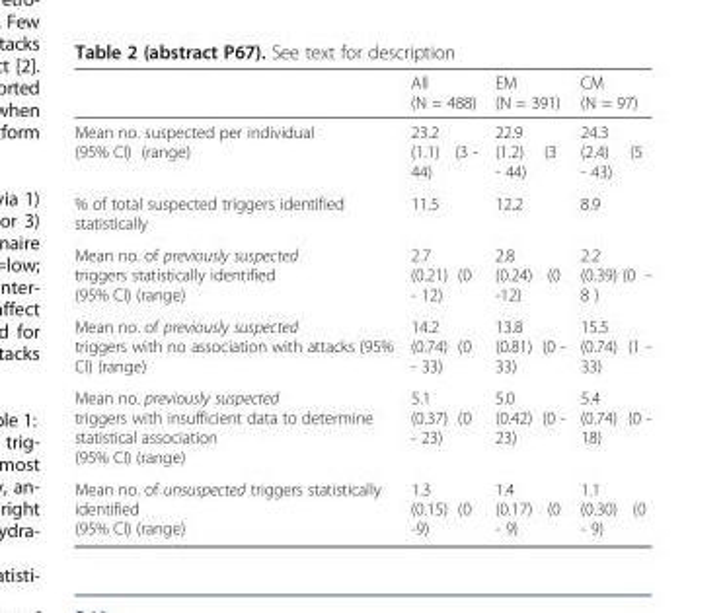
<table><thead><tr><td></td><td>All (N = 488)</td><td>EM (N = 391)</td><td>CM (N = 97)</td></tr></thead><tbody><tr><td>Mean no. suspected per individual (95% CI) (range)</td><td>23.2 (1.1) (3 - 44)</td><td>22.9 (1.2) (3 - 44)</td><td>24.3 (2.4) (5 - 43)</td></tr><tr><td>% of total suspected triggers identified statistically</td><td>11.5</td><td>12.2</td><td>8.9</td></tr><tr><td>Mean no. of previously suspected triggers statistically identified (95% CI) (range)</td><td>2.7 (0.21) (0 - 12)</td><td>2.8 (0.24) (0 -12)</td><td>2.2 (0.39) (0 - 8 )</td></tr><tr><td>Mean no. of previously suspected triggers with no association with attacks (95% CI) (range)</td><td>14.2 (0.74) (0 - 33)</td><td>13.8 (0.81) (0 - 33)</td><td>15.5 (0.74) (1 - 33)</td></tr><tr><td>Mean no. previously suspected triggers with insufficient data to determine statistical association (95% CI) (range)</td><td>5.1 (0.37) (0 - 23)</td><td>5.0 (0.42) (0 - 23)</td><td>5.4 (0.74) (0 - 18)</td></tr><tr><td>Mean no. of unsuspected triggers statistically identified (95% CI) (range)</td><td>1.3 (0.15) (0 -9)</td><td>1.4 (0.17) (0 - 9)</td><td>1.1 (0.30) (0 - 9)</td></tr></tbody></table>